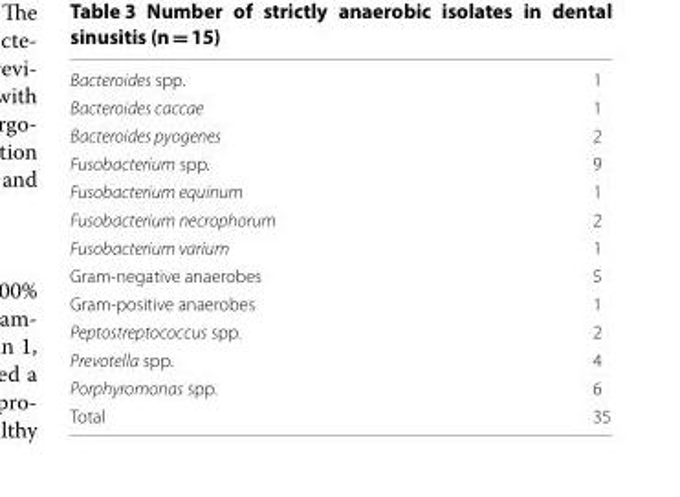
<table><tbody><tr><td>Bacteroides spp.</td><td>1</td></tr><tr><td>Bacteroides caccae</td><td>1</td></tr><tr><td>Bacteroides pyogenes</td><td>2</td></tr><tr><td>Fusobacterium spp.</td><td>9</td></tr><tr><td>Fusobacterium equinum</td><td>1</td></tr><tr><td>Fusobacterium necrophorum</td><td>2</td></tr><tr><td>Fusobacterium varium</td><td>1</td></tr><tr><td>Gram‑negative anaerobes</td><td>5</td></tr><tr><td>Gram‑positive anaerobes</td><td>1</td></tr><tr><td>Peptostreptococcus spp.</td><td>2</td></tr><tr><td>Prevotella spp.</td><td>4</td></tr><tr><td>Porphyromonas spp.</td><td>6</td></tr><tr><td>Total</td><td>35</td></tr></tbody></table>